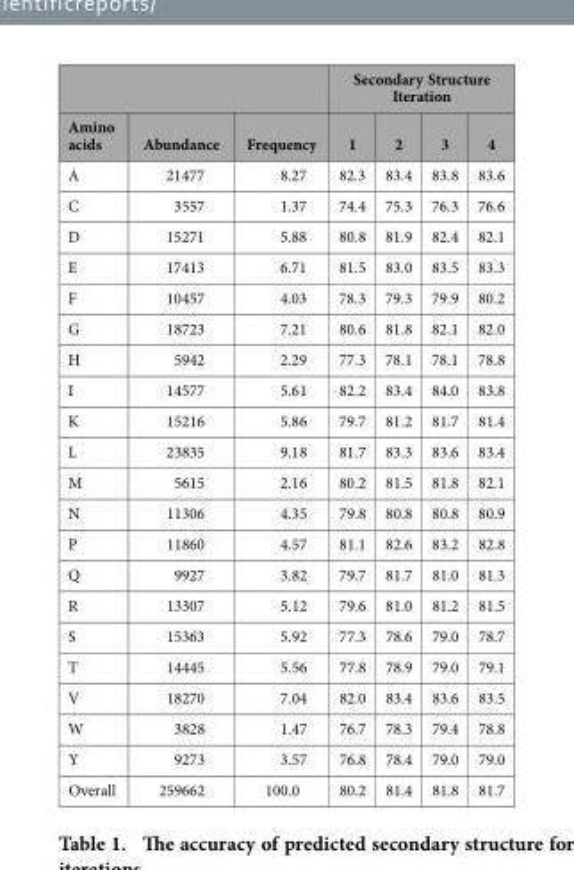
<table><thead><tr><td rowspan="2">Amino acids</td><td rowspan="2">Abundance</td><td rowspan="2">Frequency</td><td colspan="4">Secondary Structure Iteration</td></tr><tr><td>1</td><td>2</td><td>3</td><td>4</td></tr></thead><tbody><tr><td>A</td><td>21477</td><td>8.27</td><td>82.3</td><td>83.4</td><td>83.8</td><td>83.6</td></tr><tr><td>C</td><td>3557</td><td>1.37</td><td>74.4</td><td>75.3</td><td>76.3</td><td>76.6</td></tr><tr><td>D</td><td>15271</td><td>5.88</td><td>80.8</td><td>81.9</td><td>82.4</td><td>82.1</td></tr><tr><td>E</td><td>17413</td><td>6.71</td><td>81.5</td><td>83.0</td><td>83.5</td><td>83.3</td></tr><tr><td>F</td><td>10457</td><td>4.03</td><td>78.3</td><td>79.3</td><td>79.9</td><td>80.2</td></tr><tr><td>G</td><td>18723</td><td>7.21</td><td>80.6</td><td>81.8</td><td>82.1</td><td>82.0</td></tr><tr><td>H</td><td>5942</td><td>2.29</td><td>77.3</td><td>78.1</td><td>78.1</td><td>78.8</td></tr><tr><td>I</td><td>14577</td><td>5.61</td><td>82.2</td><td>83.4</td><td>84.0</td><td>83.8</td></tr><tr><td>K</td><td>15216</td><td>5.86</td><td>79.7</td><td>81.2</td><td>81.7</td><td>81.4</td></tr><tr><td>L</td><td>23835</td><td>9.18</td><td>81.7</td><td>83.3</td><td>83.6</td><td>83.4</td></tr><tr><td>M</td><td>5615</td><td>2.16</td><td>80.2</td><td>81.5</td><td>81.8</td><td>82.1</td></tr><tr><td>N</td><td>11306</td><td>4.35</td><td>79.8</td><td>80.8</td><td>80.8</td><td>80.9</td></tr><tr><td>P</td><td>11860</td><td>4.57</td><td>81.1</td><td>82.6</td><td>83.2</td><td>82.8</td></tr><tr><td>Q</td><td>9927</td><td>3.82</td><td>79.7</td><td>81.7</td><td>81.0</td><td>81.3</td></tr><tr><td>R</td><td>13307</td><td>5.12</td><td>79.6</td><td>81.0</td><td>81.2</td><td>81.5</td></tr><tr><td>S</td><td>15363</td><td>5.92</td><td>77.3</td><td>78.6</td><td>79.0</td><td>78.7</td></tr><tr><td>T</td><td>14445</td><td>5.56</td><td>77.8</td><td>78.9</td><td>79.0</td><td>79.1</td></tr><tr><td>V</td><td>18270</td><td>7.04</td><td>82.0</td><td>83.4</td><td>83.6</td><td>83.5</td></tr><tr><td>W</td><td>3828</td><td>1.47</td><td>76.7</td><td>78.3</td><td>79.4</td><td>78.8</td></tr><tr><td>Y</td><td>9273</td><td>3.57</td><td>76.8</td><td>78.4</td><td>79.0</td><td>79.0</td></tr><tr><td>Overall</td><td>259662</td><td>100.0</td><td>80.2</td><td>81.4</td><td>81.8</td><td>81.7</td></tr></tbody></table>